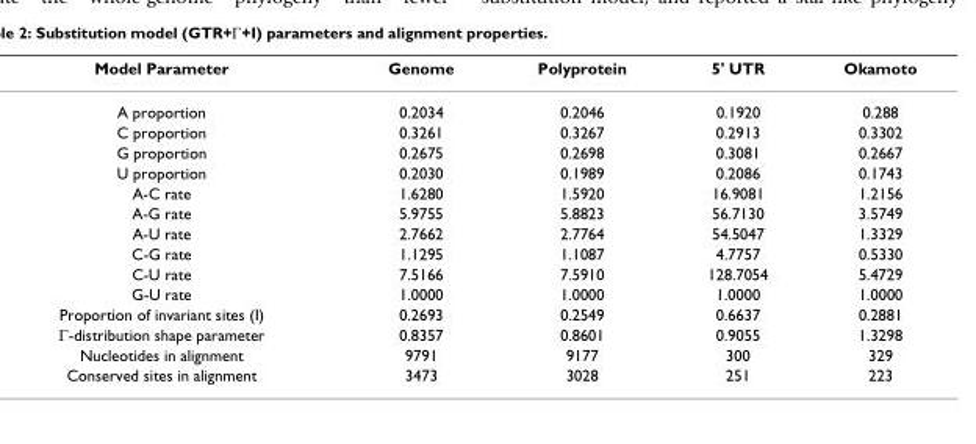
<table><thead><tr><td>Model Parameter</td><td>Genome</td><td>Polyprotein</td><td>5&#x27; UTR</td><td>Okamoto</td></tr></thead><tbody><tr><td>A proportion</td><td>0.2034</td><td>0.2046</td><td>0.1920</td><td>0.288</td></tr><tr><td>C proportion</td><td>0.3261</td><td>0.3267</td><td>0.2913</td><td>0.3302</td></tr><tr><td>G proportion</td><td>0.2675</td><td>0.2698</td><td>0.3081</td><td>0.2667</td></tr><tr><td>U proportion</td><td>0.2030</td><td>0.1989</td><td>0.2086</td><td>0.1743</td></tr><tr><td>A-C rate</td><td>1.6280</td><td>1.5920</td><td>16.9081</td><td>1.2156</td></tr><tr><td>A-G rate</td><td>5.9755</td><td>5.8823</td><td>56.7130</td><td>3.5749</td></tr><tr><td>A-U rate</td><td>2.7662</td><td>2.7764</td><td>54.5047</td><td>1.3329</td></tr><tr><td>C-G rate</td><td>1.1295</td><td>1.1087</td><td>4.7757</td><td>0.5330</td></tr><tr><td>C-U rate</td><td>7.5166</td><td>7.5910</td><td>128.7054</td><td>5.4729</td></tr><tr><td>G-U rate</td><td>1.0000</td><td>1.0000</td><td>1.0000</td><td>1.0000</td></tr><tr><td>Proportion of invariant sites (I)</td><td>0.2693</td><td>0.2549</td><td>0.6637</td><td>0.2881</td></tr><tr><td>Γ-distribution shape parameter</td><td>0.8357</td><td>0.8601</td><td>0.9055</td><td>1.3298</td></tr><tr><td>Nucleotides in alignment</td><td>9791</td><td>9177</td><td>300</td><td>329</td></tr><tr><td>Conserved sites in alignment</td><td>3473</td><td>3028</td><td>251</td><td>223</td></tr></tbody></table>